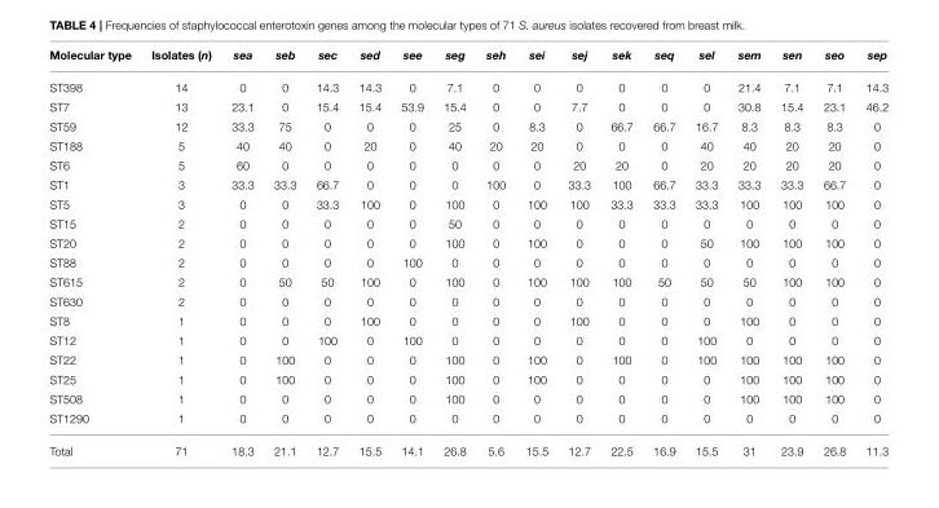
<table><thead><tr><td>Molecular type</td><td>Isolates (n)</td><td>sea</td><td>seb</td><td>sec</td><td>sed</td><td>see</td><td>seg</td><td>seh</td><td>sei</td><td>sej</td><td>sek</td><td>seq</td><td>sel</td><td>sem</td><td>sen</td><td>seo</td><td>sep</td></tr></thead><tbody><tr><td>ST398</td><td>14</td><td>0</td><td>0</td><td>14.3</td><td>14.3</td><td>0</td><td>7.1</td><td>0</td><td>0</td><td>0</td><td>0</td><td>0</td><td>0</td><td>21.4</td><td>7.1</td><td>7.1</td><td>14.3</td></tr><tr><td>ST7</td><td>13</td><td>23.1</td><td>0</td><td>15.4</td><td>15.4</td><td>53.9</td><td>15.4</td><td>0</td><td>0</td><td>7.7</td><td>0</td><td>0</td><td>0</td><td>30.8</td><td>15.4</td><td>23.1</td><td>46.2</td></tr><tr><td>ST59</td><td>12</td><td>33.3</td><td>75</td><td>0</td><td>0</td><td>0</td><td>25</td><td>0</td><td>8.3</td><td>0</td><td>66.7</td><td>66.7</td><td>16.7</td><td>8.3</td><td>8.3</td><td>8.3</td><td>0</td></tr><tr><td>ST188</td><td>5</td><td>40</td><td>40</td><td>0</td><td>20</td><td>0</td><td>40</td><td>20</td><td>20</td><td>0</td><td>0</td><td>0</td><td>40</td><td>40</td><td>20</td><td>20</td><td>0</td></tr><tr><td>ST6</td><td>5</td><td>60</td><td>0</td><td>0</td><td>0</td><td>0</td><td>0</td><td>0</td><td>0</td><td>20</td><td>20</td><td>0</td><td>20</td><td>20</td><td>20</td><td>20</td><td>0</td></tr><tr><td>ST1</td><td>3</td><td>33.3</td><td>33.3</td><td>66.7</td><td>0</td><td>0</td><td>0</td><td>100</td><td>0</td><td>33.3</td><td>100</td><td>66.7</td><td>33.3</td><td>33.3</td><td>33.3</td><td>66.7</td><td>0</td></tr><tr><td>ST5</td><td>3</td><td>0</td><td>0</td><td>33.3</td><td>100</td><td>0</td><td>100</td><td>0</td><td>100</td><td>100</td><td>33.3</td><td>33.3</td><td>33.3</td><td>100</td><td>100</td><td>100</td><td>0</td></tr><tr><td>ST15</td><td>2</td><td>0</td><td>0</td><td>0</td><td>0</td><td>0</td><td>50</td><td>0</td><td>0</td><td>0</td><td>0</td><td>0</td><td>0</td><td>0</td><td>0</td><td>0</td><td>0</td></tr><tr><td>ST20</td><td>2</td><td>0</td><td>0</td><td>0</td><td>0</td><td>0</td><td>100</td><td>0</td><td>100</td><td>0</td><td>0</td><td>0</td><td>50</td><td>100</td><td>100</td><td>100</td><td>0</td></tr><tr><td>ST88</td><td>2</td><td>0</td><td>0</td><td>0</td><td>0</td><td>100</td><td>0</td><td>0</td><td>0</td><td>0</td><td>0</td><td>0</td><td>0</td><td>0</td><td>0</td><td>0</td><td>0</td></tr><tr><td>ST615</td><td>2</td><td>0</td><td>50</td><td>50</td><td>100</td><td>0</td><td>100</td><td>0</td><td>100</td><td>100</td><td>100</td><td>50</td><td>50</td><td>50</td><td>100</td><td>100</td><td>0</td></tr><tr><td>ST630</td><td>2</td><td>0</td><td>0</td><td>0</td><td>0</td><td>0</td><td>0</td><td>0</td><td>0</td><td>0</td><td>0</td><td>0</td><td>0</td><td>0</td><td>0</td><td>0</td><td>0</td></tr><tr><td>ST8</td><td>1</td><td>0</td><td>0</td><td>0</td><td>100</td><td>0</td><td>0</td><td>0</td><td>0</td><td>100</td><td>0</td><td>0</td><td>0</td><td>100</td><td>0</td><td>0</td><td>0</td></tr><tr><td>ST12</td><td>1</td><td>0</td><td>0</td><td>100</td><td>0</td><td>100</td><td>0</td><td>0</td><td>0</td><td>0</td><td>0</td><td>0</td><td>100</td><td>0</td><td>0</td><td>0</td><td>0</td></tr><tr><td>ST22</td><td>1</td><td>0</td><td>100</td><td>0</td><td>0</td><td>0</td><td>100</td><td>0</td><td>100</td><td>0</td><td>100</td><td>0</td><td>100</td><td>100</td><td>100</td><td>100</td><td>0</td></tr><tr><td>ST25</td><td>1</td><td>0</td><td>100</td><td>0</td><td>0</td><td>0</td><td>100</td><td>0</td><td>100</td><td>0</td><td>0</td><td>0</td><td>0</td><td>100</td><td>100</td><td>100</td><td>0</td></tr><tr><td>ST508</td><td>1</td><td>0</td><td>0</td><td>0</td><td>0</td><td>0</td><td>100</td><td>0</td><td>0</td><td>0</td><td>0</td><td>0</td><td>0</td><td>100</td><td>100</td><td>100</td><td>0</td></tr><tr><td>ST1290</td><td>1</td><td>0</td><td>0</td><td>0</td><td>0</td><td>0</td><td>0</td><td>0</td><td>0</td><td>0</td><td>0</td><td>0</td><td>0</td><td>0</td><td>0</td><td>0</td><td>0</td></tr><tr><td>Total</td><td>71</td><td>18.3</td><td>21.1</td><td>12.7</td><td>15.5</td><td>14.1</td><td>26.8</td><td>5.6</td><td>15.5</td><td>12.7</td><td>22.5</td><td>16.9</td><td>15.5</td><td>31</td><td>23.9</td><td>26.8</td><td>11.3</td></tr></tbody></table>